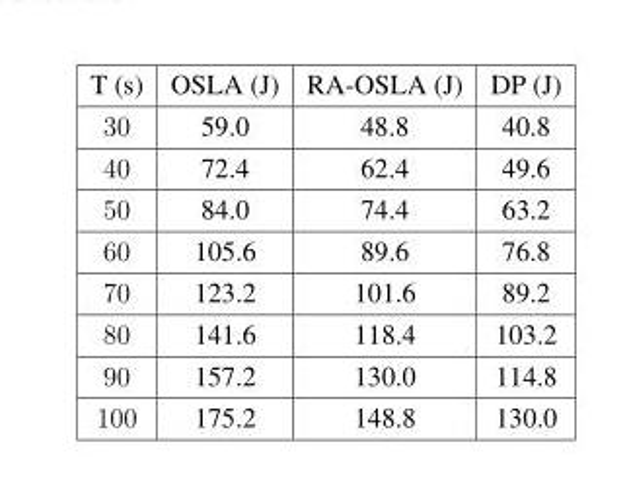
<table><thead><tr><td>T (s)</td><td>OSLA (J)</td><td>RA-OSLA (J)</td><td>DP (J)</td></tr></thead><tbody><tr><td>30</td><td>59.0</td><td>48.8</td><td>40.8</td></tr><tr><td>40</td><td>72.4</td><td>62.4</td><td>49.6</td></tr><tr><td>50</td><td>84.0</td><td>74.4</td><td>63.2</td></tr><tr><td>60</td><td>105.6</td><td>89.6</td><td>76.8</td></tr><tr><td>70</td><td>123.2</td><td>101.6</td><td>89.2</td></tr><tr><td>80</td><td>141.6</td><td>118.4</td><td>103.2</td></tr><tr><td>90</td><td>157.2</td><td>130.0</td><td>114.8</td></tr><tr><td>100</td><td>175.2</td><td>148.8</td><td>130.0</td></tr></tbody></table>